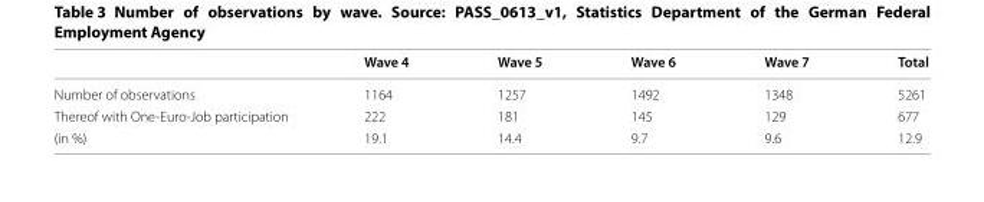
<table><thead><tr><td></td><td>Wave 4</td><td>Wave 5</td><td>Wave 6</td><td>Wave 7</td><td>Total</td></tr></thead><tbody><tr><td>Number of observations</td><td>1164</td><td>1257</td><td>1492</td><td>1348</td><td>5261</td></tr><tr><td>Thereof with One-Euro-Job participation</td><td>222</td><td>181</td><td>145</td><td>129</td><td>677</td></tr><tr><td>(in %)</td><td>19.1</td><td>14.4</td><td>9.7</td><td>9.6</td><td>12.9</td></tr></tbody></table>